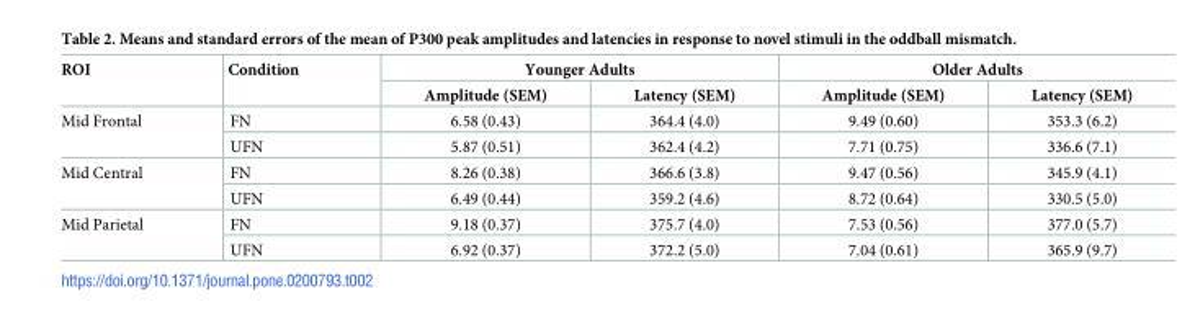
<table><thead><tr><td rowspan="2">ROI</td><td rowspan="2">Condition</td><td colspan="2">Younger Adults</td><td colspan="2">Older Adults</td></tr><tr><td>Amplitude (SEM)</td><td>Latency (SEM)</td><td>Amplitude (SEM)</td><td>Latency (SEM)</td></tr></thead><tbody><tr><td rowspan="2">Mid Frontal</td><td>FN</td><td>6.58 (0.43)</td><td>364.4 (4.0)</td><td>9.49 (0.60)</td><td>353.3 (6.2)</td></tr><tr><td>UFN</td><td>5.87 (0.51)</td><td>362.4 (4.2)</td><td>7.71 (0.75)</td><td>336.6 (7.1)</td></tr><tr><td rowspan="2">Mid Central</td><td>FN</td><td>8.26 (0.38)</td><td>366.6 (3.8)</td><td>9.47 (0.56)</td><td>345.9 (4.1)</td></tr><tr><td>UFN</td><td>6.49 (0.44)</td><td>359.2 (4.6)</td><td>8.72 (0.64)</td><td>330.5 (5.0)</td></tr><tr><td rowspan="2">Mid Parietal</td><td>FN</td><td>9.18 (0.37)</td><td>375.7 (4.0)</td><td>7.53 (0.56)</td><td>377.0 (5.7)</td></tr><tr><td>UFN</td><td>6.92 (0.37)</td><td>372.2 (5.0)</td><td>7.04 (0.61)</td><td>365.9 (9.7)</td></tr></tbody></table>